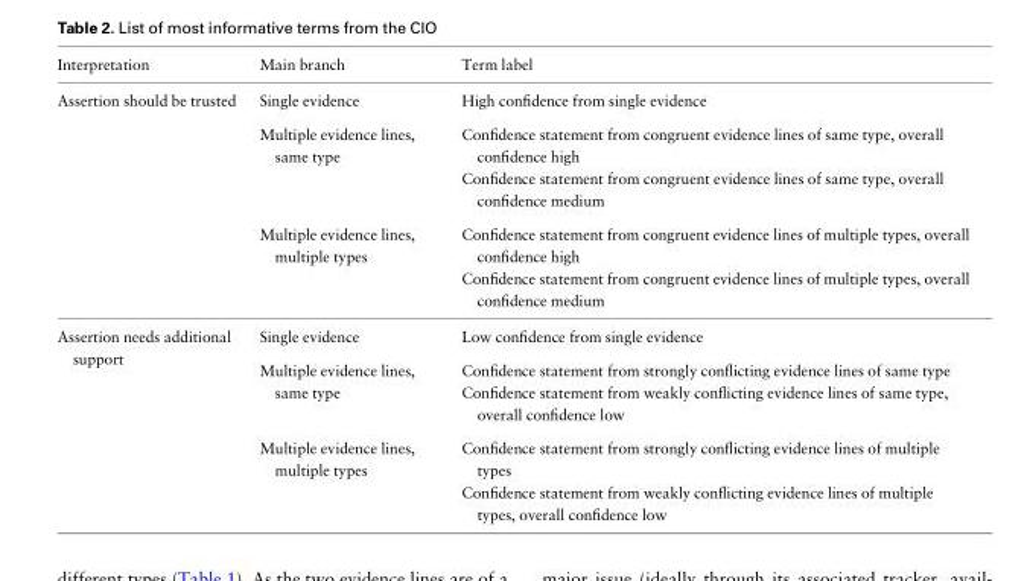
<table><thead><tr><td>Interpretation</td><td>Main branch</td><td>Term label</td></tr></thead><tbody><tr><td rowspan="5">Assertion should be trusted</td><td>Single evidence</td><td>High confidence from single evidence</td></tr><tr><td rowspan="2">Multiple evidence lines, same type</td><td>Confidence statement from congruent evidence lines of same type, overall confidence high</td></tr><tr><td>Confidence statement from congruent evidence lines of same type, overall confidence medium</td></tr><tr><td rowspan="2">Multiple evidence lines, multiple types</td><td>Confidence statement from congruent evidence lines of multiple types, overall confidence high</td></tr><tr><td>Confidence statement from congruent evidence lines of multiple types, overall confidence medium</td></tr><tr><td rowspan="5">Assertion needs additional support</td><td>Single evidence</td><td>Low confidence from single evidence</td></tr><tr><td rowspan="2">Multiple evidence lines, same type</td><td>Confidence statement from strongly conflicting evidence lines of same type</td></tr><tr><td>Confidence statement from weakly conflicting evidence lines of same type, overall confidence low</td></tr><tr><td rowspan="2">Multiple evidence lines, multiple types</td><td>Confidence statement from strongly conflicting evidence lines of multiple types</td></tr><tr><td>Confidence statement from weakly conflicting evidence lines of multiple types, overall confidence low</td></tr></tbody></table>